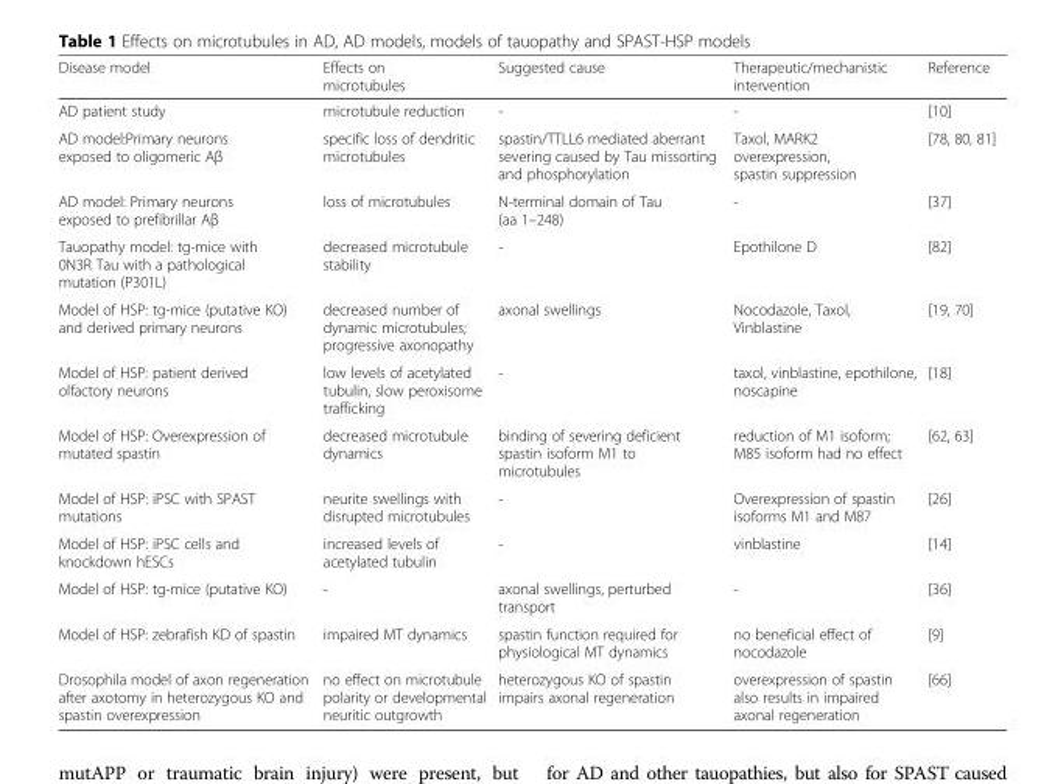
<table><thead><tr><td>Disease model</td><td>Effects on microtubules</td><td>Suggested cause</td><td>Therapeutic/mechanistic intervention</td><td>Reference</td></tr></thead><tbody><tr><td>AD patient study</td><td>microtubule reduction</td><td>-</td><td>-</td><td>[10]</td></tr><tr><td>AD model:Primary neurons exposed to oligomeric Aβ</td><td>specific loss of dendritic microtubules</td><td>spastin/TTLL6 mediated aberrant severing caused by Tau missorting and phosphorylation</td><td>Taxol, MARK2 overexpression, spastin suppression</td><td>[78, 80, 81]</td></tr><tr><td>AD model: Primary neurons exposed to prefibrillar Aβ</td><td>loss of microtubules</td><td>N-terminal domain of Tau (aa 1–248)</td><td>-</td><td>[37]</td></tr><tr><td>Tauopathy model: tg-mice with 0N3R Tau with a pathological mutation (P301L)</td><td>decreased microtubule stability</td><td>-</td><td>Epothilone D</td><td>[82]</td></tr><tr><td>Model of HSP: tg-mice (putative KO) and derived primary neurons</td><td>decreased number of dynamic microtubules; progressive axonopathy</td><td>axonal swellings</td><td>Nocodazole, Taxol, Vinblastine</td><td>[19, 70]</td></tr><tr><td>Model of HSP: patient derived olfactory neurons</td><td>low levels of acetylated tubulin, slow peroxisome trafficking</td><td>-</td><td>taxol, vinblastine, epothilone, noscapine</td><td>[18]</td></tr><tr><td>Model of HSP: Overexpression of mutated spastin</td><td>decreased microtubule dynamics</td><td>binding of severing deficient spastin isoform M1 to microtubules</td><td>reduction of M1 isoform; M85 isoform had no effect</td><td>[62, 63]</td></tr><tr><td>Model of HSP: iPSC with SPAST mutations</td><td>neurite swellings with disrupted microtubules</td><td>-</td><td>Overexpression of spastin isoforms M1 and M87</td><td>[26]</td></tr><tr><td>Model of HSP: iPSC cells and knockdown hESCs</td><td>increased levels of acetylated tubulin</td><td>-</td><td>vinblastine</td><td>[14]</td></tr><tr><td>Model of HSP: tg-mice (putative KO)</td><td>-</td><td>axonal swellings, perturbed transport</td><td>-</td><td>[36]</td></tr><tr><td>Model of HSP: zebrafish KD of spastin</td><td>impaired MT dynamics</td><td>spastin function required for physiological MT dynamics</td><td>no beneficial effect of nocodazole</td><td>[9]</td></tr><tr><td>Drosophila model of axon regeneration after axotomy in heterozygous KO and spastin overexpression</td><td>no effect on microtubule polarity or developmental neuritic outgrowth</td><td>heterozygous KO of spastin impairs axonal regeneration</td><td>overexpression of spastin also results in impaired axonal regeneration</td><td>[66]</td></tr></tbody></table>